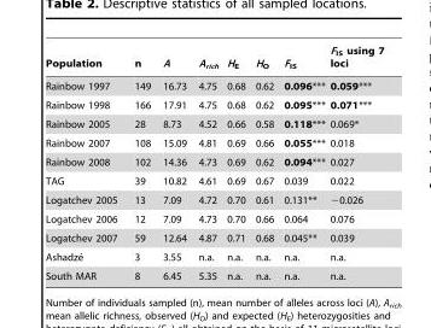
<table><thead><tr><td>Population</td><td>n</td><td>A</td><td>A<sub>rich</sub></td><td>H<sub>E</sub></td><td>H<sub>O</sub></td><td>F<sub>IS</sub></td><td>F<sub>IS</sub> using 7 loci</td></tr></thead><tbody><tr><td>Rainbow 1997</td><td>149</td><td>16.73</td><td>4.75</td><td>0.68</td><td>0.62</td><td>0.096***</td><td>0.059***</td></tr><tr><td>Rainbow 1998</td><td>166</td><td>17.91</td><td>4.75</td><td>0.68</td><td>0.62</td><td>0.095***</td><td>0.071***</td></tr><tr><td>Rainbow 2005</td><td>28</td><td>8.73</td><td>4.52</td><td>0.66</td><td>0.58</td><td>0.118***</td><td>0.069*</td></tr><tr><td>Rainbow 2007</td><td>108</td><td>15.09</td><td>4.81</td><td>0.69</td><td>0.66</td><td>0.055***</td><td>0.018</td></tr><tr><td>Rainbow 2008</td><td>102</td><td>14.36</td><td>4.73</td><td>0.69</td><td>0.62</td><td>0.094***</td><td>0.027</td></tr><tr><td>TAG</td><td>39</td><td>10.82</td><td>4.61</td><td>0.69</td><td>0.67</td><td>0.039</td><td>0.022</td></tr><tr><td>Logatchev 2005</td><td>13</td><td>7.09</td><td>4.72</td><td>0.70</td><td>0.61</td><td>0.131**</td><td>−0.026</td></tr><tr><td>Logatchev 2006</td><td>12</td><td>7.09</td><td>4.73</td><td>0.70</td><td>0.66</td><td>0.064</td><td>0.076</td></tr><tr><td>Logatchev 2007</td><td>59</td><td>12.64</td><td>4.87</td><td>0.71</td><td>0.68</td><td>0.045**</td><td>0.039</td></tr><tr><td>Ashadze´</td><td>3</td><td>3.55</td><td>n.a.</td><td>n.a.</td><td>n.a.</td><td>n.a.</td><td>n.a.</td></tr><tr><td>South MAR</td><td>8</td><td>6.45</td><td>5.35</td><td>n.a.</td><td>n.a.</td><td>n.a.</td><td>n.a.</td></tr></tbody></table>